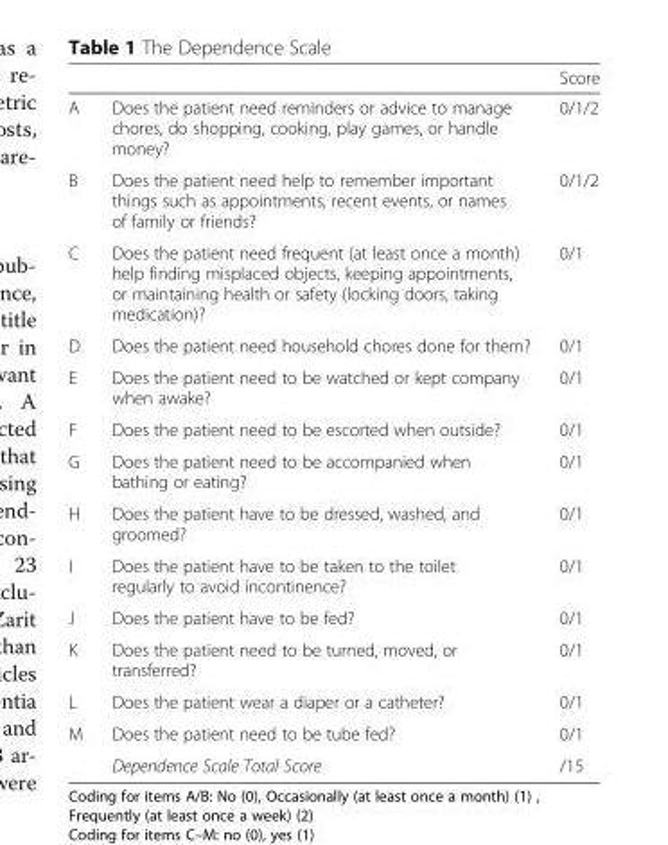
<table><thead><tr><td></td><td></td><td>Score</td></tr></thead><tbody><tr><td>A</td><td>Does the patient need reminders or advice to manage chores, do shopping, cooking, play games, or handle money?</td><td>0/1/2</td></tr><tr><td>B</td><td>Does the patient need help to remember important things such as appointments, recent events, or names of family or friends?</td><td>0/1/2</td></tr><tr><td>C</td><td>Does the patient need frequent (at least once a month) help finding misplaced objects, keeping appointments, or maintaining health or safety (locking doors, taking medication)?</td><td>0/1</td></tr><tr><td>D</td><td>Does the patient need household chores done for them?</td><td>0/1</td></tr><tr><td>E</td><td>Does the patient need to be watched or kept company when awake?</td><td>0/1</td></tr><tr><td>F</td><td>Does the patient need to be escorted when outside?</td><td>0/1</td></tr><tr><td>G</td><td>Does the patient need to be accompanied when bathing or eating?</td><td>0/1</td></tr><tr><td>H</td><td>Does the patient have to be dressed, washed, and groomed?</td><td>0/1</td></tr><tr><td>I</td><td>Does the patient have to be taken to the toilet regularly to avoid incontinence?</td><td>0/1</td></tr><tr><td>J</td><td>Does the patient have to be fed?</td><td>0/1</td></tr><tr><td>K</td><td>Does the patient need to be turned, moved, or transferred?</td><td>0/1</td></tr><tr><td>L</td><td>Does the patient wear a diaper or a catheter?</td><td>0/1</td></tr><tr><td rowspan="2">M</td><td>Does the patient need to be tube fed?</td><td>0/1</td></tr><tr><td>Dependence Scale Total Score</td><td>/15</td></tr></tbody></table>